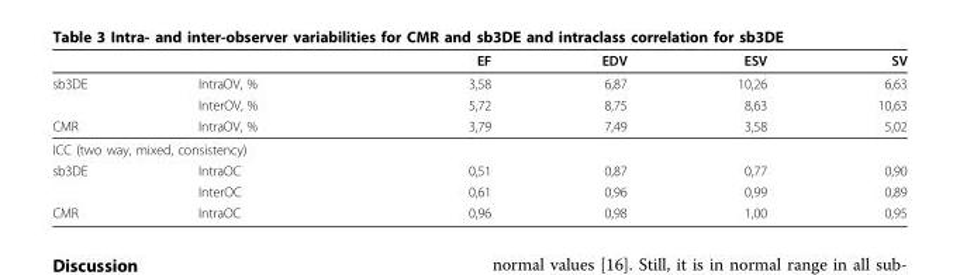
<table><thead><tr><td></td><td></td><td>EF</td><td>EDV</td><td>ESV</td><td>SV</td></tr></thead><tbody><tr><td rowspan="2">sb3DE</td><td>IntraOV, %</td><td>3,58</td><td>6,87</td><td>10,26</td><td>6,63</td></tr><tr><td>InterOV, %</td><td>5,72</td><td>8,75</td><td>8,63</td><td>10,63</td></tr><tr><td>CMR</td><td>IntraOV, %</td><td>3,79</td><td>7,49</td><td>3,58</td><td>5,02</td></tr><tr><td colspan="6">ICC (two way, mixed, consistency)</td></tr><tr><td rowspan="2">sb3DE</td><td>IntraOC</td><td>0,51</td><td>0,87</td><td>0,77</td><td>0,90</td></tr><tr><td>InterOC</td><td>0,61</td><td>0,96</td><td>0,99</td><td>0,89</td></tr><tr><td>CMR</td><td>IntraOC</td><td>0,96</td><td>0,98</td><td>1,00</td><td>0,95</td></tr></tbody></table>